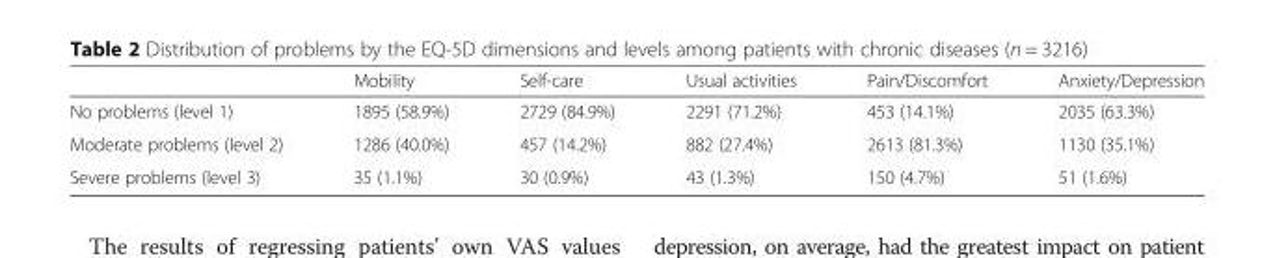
<table><thead><tr><td></td><td>Mobility</td><td>Self-care</td><td>Usual activities</td><td>Pain/Discomfort</td><td>Anxiety/Depression</td></tr></thead><tbody><tr><td>No problems (level 1)</td><td>1895 (58.9%)</td><td>2729 (84.9%)</td><td>2291 (71.2%)</td><td>453 (14.1%)</td><td>2035 (63.3%)</td></tr><tr><td>Moderate problems (level 2)</td><td>1286 (40.0%)</td><td>457 (14.2%)</td><td>882 (27.4%)</td><td>2613 (81.3%)</td><td>1130 (35.1%)</td></tr><tr><td>Severe problems (level 3)</td><td>35 (1.1%)</td><td>30 (0.9%)</td><td>43 (1.3%)</td><td>150 (4.7%)</td><td>51 (1.6%)</td></tr></tbody></table>